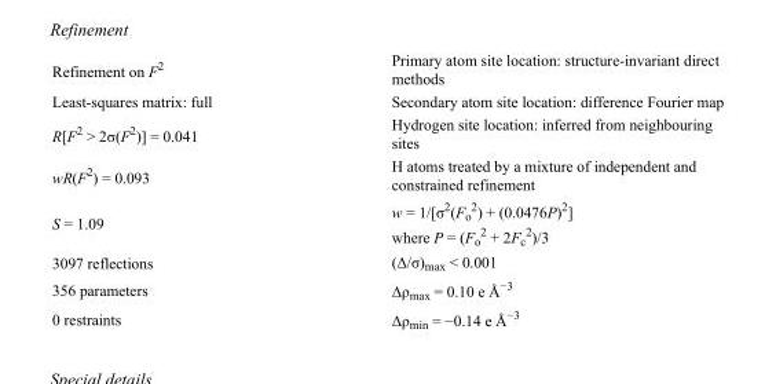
<table><tbody><tr><td>Refinement on F<sup>2</sup></td><td>Primary atom site location: structure-invariant direct methods</td></tr><tr><td>Least-squares matrix: full</td><td>Secondary atom site location: difference Fourier map</td></tr><tr><td>R[F<sup>2</sup> &gt; 2σ(F<sup>2</sup>)] = 0.041</td><td>Hydrogen site location: inferred from neighbouring sites</td></tr><tr><td>wR(F<sup>2</sup>) = 0.093</td><td>H atoms treated by a mixture of independent and constrained refinement</td></tr><tr><td>S = 1.09</td><td>w = 1/[σ<sup>2</sup>(F<sub>o</sub> <sup>2</sup>) + (0.0476P)<sup>2</sup>] where P = (F<sub>o</sub> <sup>2</sup> + 2F<sub>c</sub> <sup>2</sup>)/3</td></tr><tr><td>3097 reflections</td><td>(Δ/σ)<sub>max</sub> &lt; 0.001</td></tr><tr><td>356 parameters</td><td>Δρ<sub>max</sub> = 0.10 e Å<sup>−3</sup></td></tr><tr><td>0 restraints</td><td>Δρ<sub>min</sub> = −0.14 e Å<sup>−3</sup></td></tr></tbody></table>